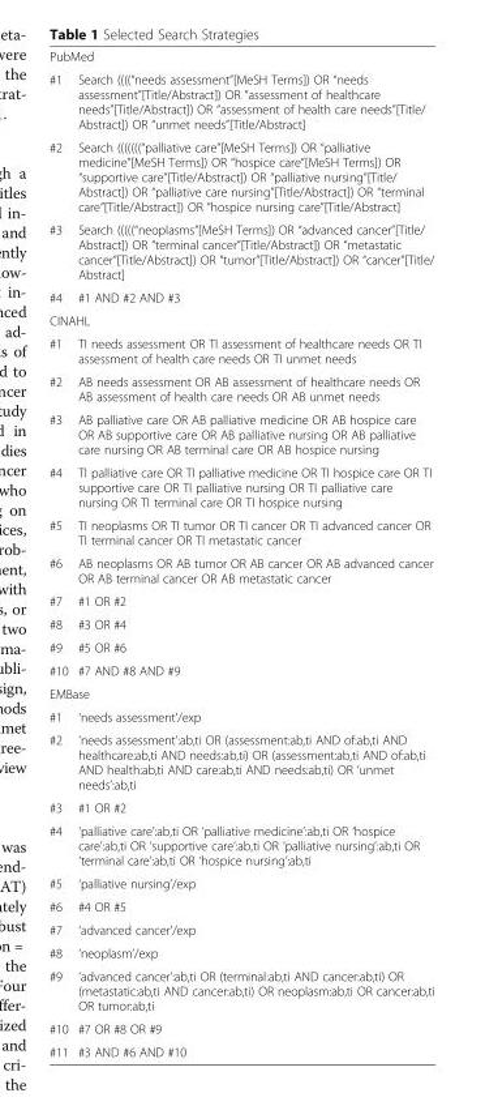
<table><tbody><tr><td colspan="2">PubMed</td></tr><tr><td>#1</td><td>Search ((((“needs assessment”[MeSH Terms]) OR “needs assessment”[Title/Abstract]) OR “assessment of healthcare needs”[Title/Abstract]) OR “assessment of health care needs”[Title/ Abstract]) OR “unmet needs”[Title/Abstract]</td></tr><tr><td>#2</td><td>Search (((((((“palliative care”[MeSH Terms]) OR “palliative medicine”[MeSH Terms]) OR “hospice care”[MeSH Terms]) OR “supportive care”[Title/Abstract]) OR “palliative nursing”[Title/ Abstract]) OR “palliative care nursing”[Title/Abstract]) OR “terminal care”[Title/Abstract]) OR “hospice nursing care”[Title/Abstract]</td></tr><tr><td>#3</td><td>Search (((((“neoplasms”[MeSH Terms]) OR “advanced cancer”[Title/ Abstract]) OR “terminal cancer”[Title/Abstract]) OR “metastatic cancer”[Title/Abstract]) OR “tumor”[Title/Abstract]) OR “cancer”[Title/ Abstract]</td></tr><tr><td>#4</td><td>#1 AND #2 AND #3</td></tr><tr><td colspan="2">CINAHL</td></tr><tr><td>#1</td><td>TI needs assessment OR TI assessment of healthcare needs OR TI assessment of health care needs OR TI unmet needs</td></tr><tr><td>#2</td><td>AB needs assessment OR AB assessment of healthcare needs OR AB assessment of health care needs OR AB unmet needs</td></tr><tr><td>#3</td><td>AB palliative care OR AB palliative medicine OR AB hospice care OR AB supportive care OR AB palliative nursing OR AB palliative care nursing OR AB terminal care OR AB hospice nursing</td></tr><tr><td>#4</td><td>TI palliative care OR TI palliative medicine OR TI hospice care OR TI supportive care OR TI palliative nursing OR TI palliative care nursing OR TI terminal care OR TI hospice nursing</td></tr><tr><td>#5</td><td>TI neoplasms OR TI tumor OR TI cancer OR TI advanced cancer OR TI terminal cancer OR TI metastatic cancer</td></tr><tr><td>#6</td><td>AB neoplasms OR AB tumor OR AB cancer OR AB advanced cancer OR AB terminal cancer OR AB metastatic cancer</td></tr><tr><td>#7</td><td>#1 OR #2</td></tr><tr><td>#8</td><td>#3 OR #4</td></tr><tr><td>#9</td><td>#5 OR #6</td></tr><tr><td>#10</td><td>#7 AND #8 AND #9</td></tr><tr><td colspan="2">EMBase</td></tr><tr><td>#1</td><td>‘needs assessment’/exp</td></tr><tr><td>#2</td><td>‘needs assessment’:ab,ti OR (assessment:ab,ti AND of:ab,ti AND healthcare:ab,ti AND needs:ab,ti) OR (assessment:ab,ti AND of:ab,ti AND health:ab,ti AND care:ab,ti AND needs:ab,ti) OR ‘unmet needs’:ab,ti</td></tr><tr><td>#3</td><td>#1 OR #2</td></tr><tr><td>#4</td><td>‘palliative care’:ab,ti OR ‘palliative medicine’:ab,ti OR ‘hospice care’:ab,ti OR ‘supportive care’:ab,ti OR ‘palliative nursing’:ab,ti OR ‘terminal care’:ab,ti OR ‘hospice nursing’:ab,ti</td></tr><tr><td>#5</td><td>‘palliative nursing’/exp</td></tr><tr><td>#6</td><td>#4 OR #5</td></tr><tr><td>#7</td><td>‘advanced cancer’/exp</td></tr><tr><td>#8</td><td>‘neoplasm’/exp</td></tr><tr><td>#9</td><td>‘advanced cancer’:ab,ti OR (terminal:ab,ti AND cancer:ab,ti) OR (metastatic:ab,ti AND cancer:ab,ti) OR neoplasm:ab,ti OR cancer:ab,ti OR tumor:ab,ti</td></tr><tr><td>#10</td><td>#7 OR #8 OR #9</td></tr><tr><td>#11</td><td>#3 AND #6 AND #10</td></tr></tbody></table>